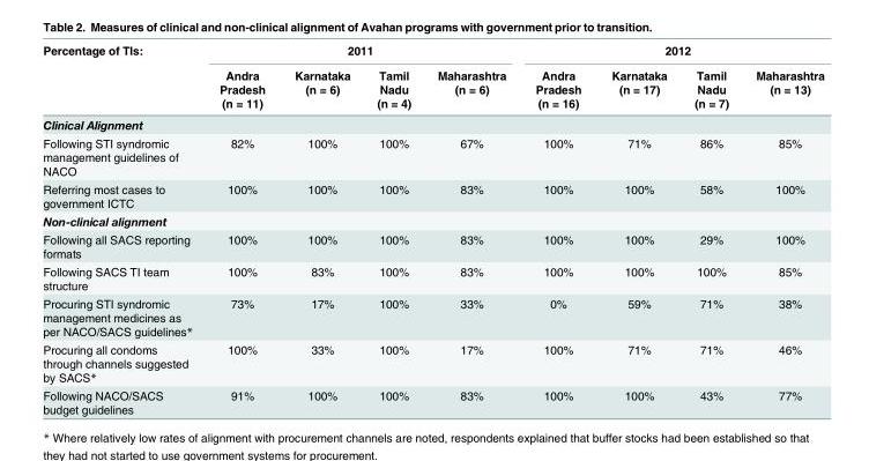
<table><thead><tr><td rowspan="2">Percentage of TIs:</td><td colspan="4">2011</td><td colspan="4">2012</td></tr><tr><td>Andra Pradesh (n = 11)</td><td>Karnataka (n = 6)</td><td>Tamil Nadu (n = 4)</td><td>Maharashtra (n = 6)</td><td>Andra Pradesh (n = 16)</td><td>Karnataka (n = 17)</td><td>Tamil Nadu (n = 7)</td><td>Maharashtra (n = 13)</td></tr></thead><tbody><tr><td colspan="9">Clinical Alignment</td></tr><tr><td>Following STI syndromic management guidelines of NACO</td><td>82%</td><td>100%</td><td>100%</td><td>67%</td><td>100%</td><td>71%</td><td>86%</td><td>85%</td></tr><tr><td>Referring most cases to government ICTC</td><td>100%</td><td>100%</td><td>100%</td><td>83%</td><td>100%</td><td>100%</td><td>58%</td><td>100%</td></tr><tr><td colspan="9">Non-clinical alignment</td></tr><tr><td>Following all SACS reporting formats</td><td>100%</td><td>100%</td><td>100%</td><td>83%</td><td>100%</td><td>100%</td><td>29%</td><td>100%</td></tr><tr><td>Following SACS TI team structure</td><td>100%</td><td>83%</td><td>100%</td><td>83%</td><td>100%</td><td>100%</td><td>100%</td><td>85%</td></tr><tr><td>Procuring STI syndromic management medicines as per NACO/SACS guidelines*</td><td>73%</td><td>17%</td><td>100%</td><td>33%</td><td>0%</td><td>59%</td><td>71%</td><td>38%</td></tr><tr><td>Procuring all condoms through channels suggested by SACS*</td><td>100%</td><td>33%</td><td>100%</td><td>17%</td><td>100%</td><td>71%</td><td>71%</td><td>46%</td></tr><tr><td>Following NACO/SACS budget guidelines</td><td>91%</td><td>100%</td><td>100%</td><td>83%</td><td>100%</td><td>100%</td><td>43%</td><td>77%</td></tr></tbody></table>